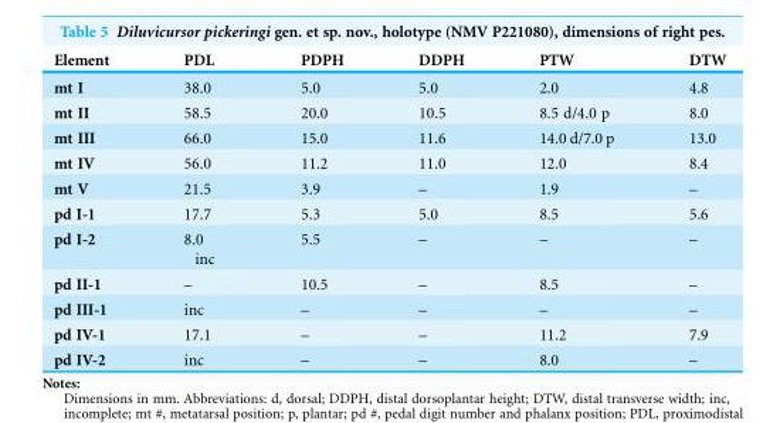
<table><thead><tr><td>Element</td><td>PDL</td><td>PDPH</td><td>DDPH</td><td>PTW</td><td>DTW</td></tr></thead><tbody><tr><td>mt I</td><td>38.0</td><td>5.0</td><td>5.0</td><td>2.0</td><td>4.8</td></tr><tr><td>mt II</td><td>58.5</td><td>20.0</td><td>10.5</td><td>8.5 d/4.0 p</td><td>8.0</td></tr><tr><td>mt III</td><td>66.0</td><td>15.0</td><td>11.6</td><td>14.0 d/7.0 p</td><td>13.0</td></tr><tr><td>mt IV</td><td>56.0</td><td>11.2</td><td>11.0</td><td>12.0</td><td>8.4</td></tr><tr><td>mt V</td><td>21.5</td><td>3.9</td><td>–</td><td>1.9</td><td>–</td></tr><tr><td>pd I-1</td><td>17.7</td><td>5.3</td><td>5.0</td><td>8.5</td><td>5.6</td></tr><tr><td>pd I-2</td><td>8.0 inc</td><td>5.5</td><td>–</td><td>–</td><td>–</td></tr><tr><td>pd II-1</td><td>–</td><td>10.5</td><td>–</td><td>8.5</td><td>–</td></tr><tr><td>pd III-1</td><td>inc</td><td>–</td><td>–</td><td>–</td><td>–</td></tr><tr><td>pd IV-1</td><td>17.1</td><td>–</td><td>–</td><td>11.2</td><td>7.9</td></tr><tr><td>pd IV-2</td><td>inc</td><td>–</td><td>–</td><td>8.0</td><td>–</td></tr></tbody></table>